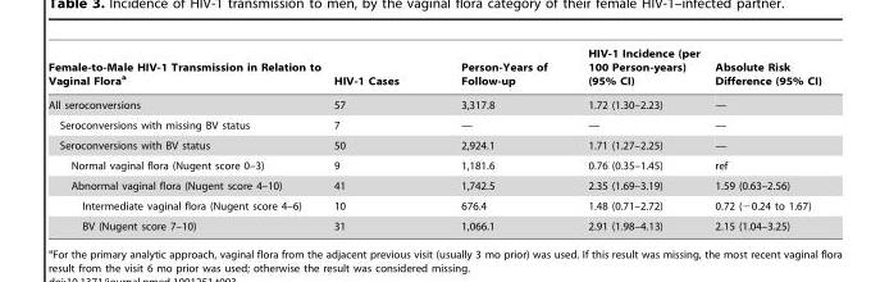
<table><thead><tr><td>Female-to-Male HIV-1 Transmission in Relation to Vaginal Flora<sup>a</sup></td><td>HIV-1 Cases</td><td>Person-Years of Follow-up</td><td>HIV-1 Incidence (per 100 Person-years) (95% CI)</td><td>Absolute Risk Difference (95% CI)</td></tr></thead><tbody><tr><td>All seroconversions</td><td>57</td><td>3,317.8</td><td>1.72 (1.30–2.23)</td><td>—</td></tr><tr><td>Seroconversions with missing BV status</td><td>7</td><td>—</td><td>—</td><td>—</td></tr><tr><td>Seroconversions with BV status</td><td>50</td><td>2,924.1</td><td>1.71 (1.27–2.25)</td><td>—</td></tr><tr><td>Normal vaginal flora (Nugent score 0–3)</td><td>9</td><td>1,181.6</td><td>0.76 (0.35–1.45)</td><td>ref</td></tr><tr><td>Abnormal vaginal flora (Nugent score 4–10)</td><td>41</td><td>1,742.5</td><td>2.35 (1.69–3.19)</td><td>1.59 (0.63–2.56)</td></tr><tr><td>Intermediate vaginal flora (Nugent score 4–6)</td><td>10</td><td>676.4</td><td>1.48 (0.71–2.72)</td><td>0.72 (−0.24 to 1.67)</td></tr><tr><td>BV (Nugent score 7–10)</td><td>31</td><td>1,066.1</td><td>2.91 (1.98–4.13)</td><td>2.15 (1.04–3.25)</td></tr></tbody></table>